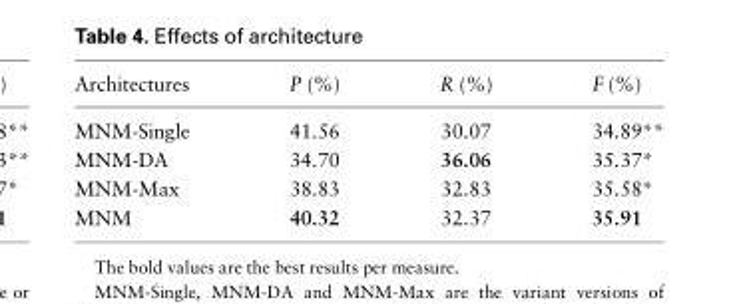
<table><thead><tr><td>Architectures</td><td>P (%)</td><td>R (%)</td><td>F (%)</td></tr></thead><tbody><tr><td>MNM-Single</td><td>41.56</td><td>30.07</td><td>34.89**</td></tr><tr><td>MNM-DA</td><td>34.70</td><td>36.06</td><td>35.37*</td></tr><tr><td>MNM-Max</td><td>38.83</td><td>32.83</td><td>35.58*</td></tr><tr><td>MNM</td><td>40.32</td><td>32.37</td><td>35.91</td></tr></tbody></table>